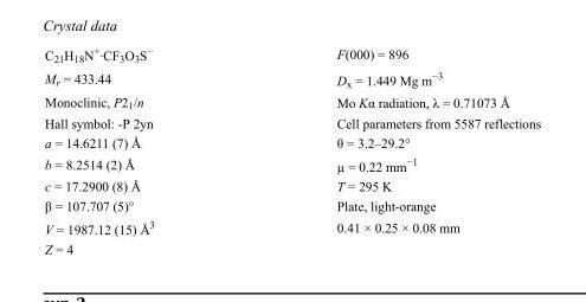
<table><tbody><tr><td>C<sub>21</sub>H<sub>18</sub>N<sup>+</sup>·CF<sub>3</sub>O<sub>3</sub>S<sup>−</sup></td><td>F(000) = 896</td></tr><tr><td>M<sub>r</sub> = 433.44</td><td>D<sub>x</sub> = 1.449 Mg m<sup>−3</sup></td></tr><tr><td>Monoclinic, P2<sub>1</sub>/n</td><td>Mo Kα radiation, λ = 0.71073 Å</td></tr><tr><td>Hall symbol: -P 2yn</td><td>Cell parameters from 5587 reflections</td></tr><tr><td>a = 14.6211 (7) Å</td><td>θ = 3.2–29.2°</td></tr><tr><td>b = 8.2514 (2) Å</td><td>µ = 0.22 mm<sup>−1</sup></td></tr><tr><td>c = 17.2900 (8) Å</td><td>T = 295 K</td></tr><tr><td>β = 107.707 (5)°</td><td>Plate, light-orange</td></tr><tr><td>V = 1987.12 (15) Å<sup>3</sup></td><td>0.41 × 0.25 × 0.08 mm</td></tr><tr><td>Z = 4</td><td></td></tr></tbody></table>